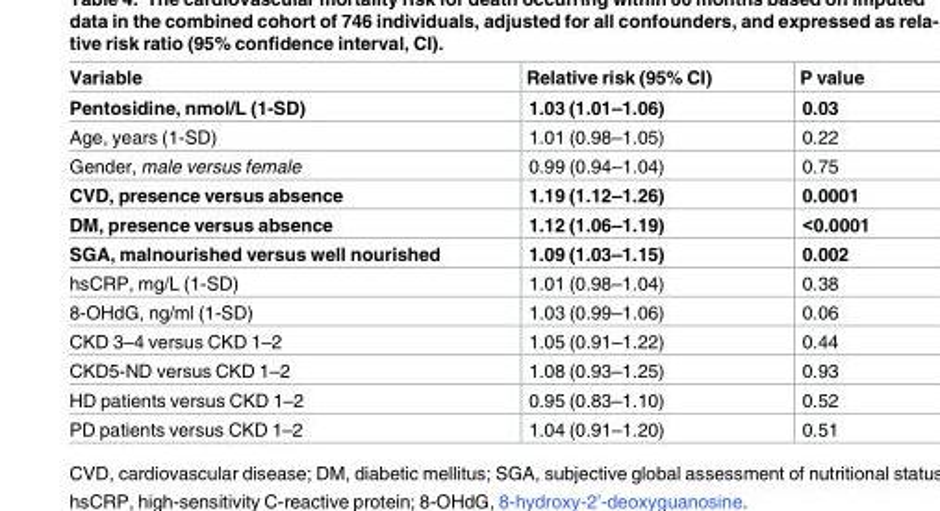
<table><thead><tr><td>Variable</td><td>Relative risk (95% CI)</td><td>P value</td></tr></thead><tbody><tr><td>Pentosidine, nmol/L (1-SD)</td><td>1.03 (1.01–1.06)</td><td>0.03</td></tr><tr><td>Age, years (1-SD)</td><td>1.01 (0.98–1.05)</td><td>0.22</td></tr><tr><td>Gender, male versus female</td><td>0.99 (0.94–1.04)</td><td>0.75</td></tr><tr><td>CVD, presence versus absence</td><td>1.19 (1.12–1.26)</td><td>0.0001</td></tr><tr><td>DM, presence versus absence</td><td>1.12 (1.06–1.19)</td><td>&lt;0.0001</td></tr><tr><td>SGA, malnourished versus well nourished</td><td>1.09 (1.03–1.15)</td><td>0.002</td></tr><tr><td>hsCRP, mg/L (1-SD)</td><td>1.01 (0.98–1.04)</td><td>0.38</td></tr><tr><td>8-OHdG, ng/ml (1-SD)</td><td>1.03 (0.99–1.06)</td><td>0.06</td></tr><tr><td>CKD 3–4 versus CKD 1–2</td><td>1.05 (0.91–1.22)</td><td>0.44</td></tr><tr><td>CKD5-ND versus CKD 1–2</td><td>1.08 (0.93–1.25)</td><td>0.93</td></tr><tr><td>HD patients versus CKD 1–2</td><td>0.95 (0.83–1.10)</td><td>0.52</td></tr><tr><td>PD patients versus CKD 1–2</td><td>1.04 (0.91–1.20)</td><td>0.51</td></tr></tbody></table>